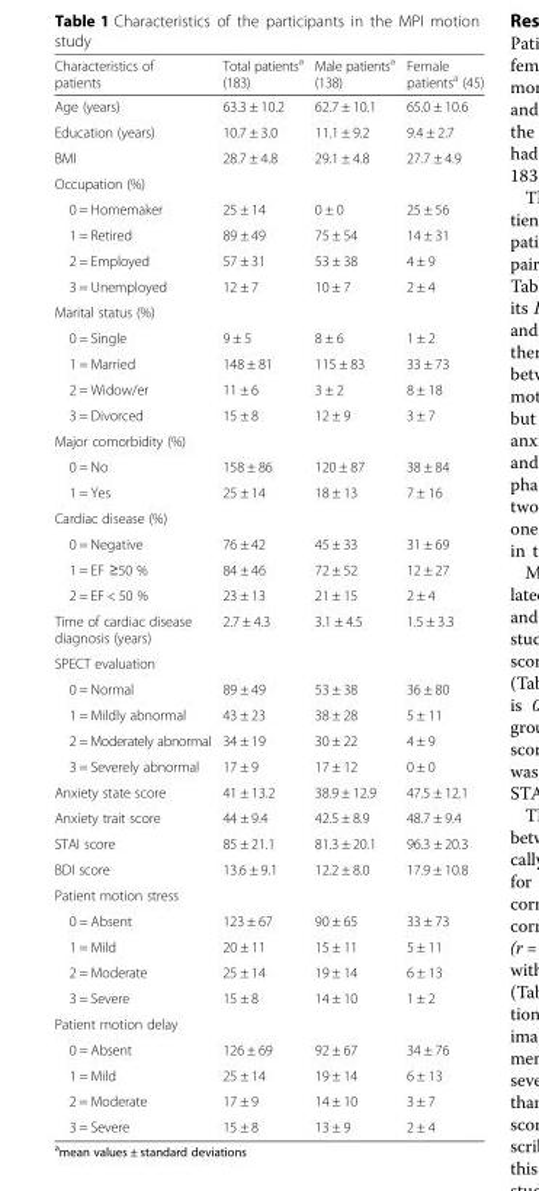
<table><thead><tr><td>Characteristics of patients</td><td>Total patients<sup>a</sup> (183)</td><td>Male patients<sup>a</sup> (138)</td><td>Female patients<sup>a</sup> (45)</td></tr></thead><tbody><tr><td>Age (years)</td><td>63.3 ± 10.2</td><td>62.7 ± 10.1</td><td>65.0 ± 10.6</td></tr><tr><td>Education (years)</td><td>10.7 ± 3.0</td><td>11.1 ± 9.2</td><td>9.4 ± 2.7</td></tr><tr><td>BMI</td><td>28.7 ± 4.8</td><td>29.1 ± 4.8</td><td>27.7 ± 4.9</td></tr><tr><td colspan="4">Occupation (%)</td></tr><tr><td>0 = Homemaker</td><td>25 ± 14</td><td>0 ± 0</td><td>25 ± 56</td></tr><tr><td>1 = Retired</td><td>89 ± 49</td><td>75 ± 54</td><td>14 ± 31</td></tr><tr><td>2 = Employed</td><td>57 ± 31</td><td>53 ± 38</td><td>4 ± 9</td></tr><tr><td>3 = Unemployed</td><td>12 ± 7</td><td>10 ± 7</td><td>2 ± 4</td></tr><tr><td colspan="4">Marital status (%)</td></tr><tr><td>0 = Single</td><td>9 ± 5</td><td>8 ± 6</td><td>1 ± 2</td></tr><tr><td>1 = Married</td><td>148 ± 81</td><td>115 ± 83</td><td>33 ± 73</td></tr><tr><td>2 = Widow/er</td><td>11 ± 6</td><td>3 ± 2</td><td>8 ± 18</td></tr><tr><td>3 = Divorced</td><td>15 ± 8</td><td>12 ± 9</td><td>3 ± 7</td></tr><tr><td colspan="4">Major comorbidity (%)</td></tr><tr><td>0 = No</td><td>158 ± 86</td><td>120 ± 87</td><td>38 ± 84</td></tr><tr><td>1 = Yes</td><td>25 ± 14</td><td>18 ± 13</td><td>7 ± 16</td></tr><tr><td colspan="4">Cardiac disease (%)</td></tr><tr><td>0 = Negative</td><td>76 ± 42</td><td>45 ± 33</td><td>31 ± 69</td></tr><tr><td>1 = EF ≥50 %</td><td>84 ± 46</td><td>72 ± 52</td><td>12 ± 27</td></tr><tr><td>2 = EF &lt; 50 %</td><td>23 ± 13</td><td>21 ± 15</td><td>2 ± 4</td></tr><tr><td>Time of cardiac disease diagnosis (years)</td><td>2.7 ± 4.3</td><td>3.1 ± 4.5</td><td>1.5 ± 3.3</td></tr><tr><td colspan="4">SPECT evaluation</td></tr><tr><td>0 = Normal</td><td>89 ± 49</td><td>53 ± 38</td><td>36 ± 80</td></tr><tr><td>1 = Mildly abnormal</td><td>43 ± 23</td><td>38 ± 28</td><td>5 ± 11</td></tr><tr><td>2 = Moderately abnormal</td><td>34 ± 19</td><td>30 ± 22</td><td>4 ± 9</td></tr><tr><td>3 = Severely abnormal</td><td>17 ± 9</td><td>17 ± 12</td><td>0 ± 0</td></tr><tr><td>Anxiety state score</td><td>41 ± 13.2</td><td>38.9 ± 12.9</td><td>47.5 ± 12.1</td></tr><tr><td>Anxiety trait score</td><td>44 ± 9.4</td><td>42.5 ± 8.9</td><td>48.7 ± 9.4</td></tr><tr><td>STAI score</td><td>85 ± 21.1</td><td>81.3 ± 20.1</td><td>96.3 ± 20.3</td></tr><tr><td>BDI score</td><td>13.6 ± 9.1</td><td>12.2 ± 8.0</td><td>17.9 ± 10.8</td></tr><tr><td colspan="4">Patient motion stress</td></tr><tr><td>0 = Absent</td><td>123 ± 67</td><td>90 ± 65</td><td>33 ± 73</td></tr><tr><td>1 = Mild</td><td>20 ± 11</td><td>15 ± 11</td><td>5 ± 11</td></tr><tr><td>2 = Moderate</td><td>25 ± 14</td><td>19 ± 14</td><td>6 ± 13</td></tr><tr><td>3 = Severe</td><td>15 ± 8</td><td>14 ± 10</td><td>1 ± 2</td></tr><tr><td colspan="4">Patient motion delay</td></tr><tr><td>0 = Absent</td><td>126 ± 69</td><td>92 ± 67</td><td>34 ± 76</td></tr><tr><td>1 = Mild</td><td>25 ± 14</td><td>19 ± 14</td><td>6 ± 13</td></tr><tr><td>2 = Moderate</td><td>17 ± 9</td><td>14 ± 10</td><td>3 ± 7</td></tr><tr><td>3 = Severe</td><td>15 ± 8</td><td>13 ± 9</td><td>2 ± 4</td></tr></tbody></table>